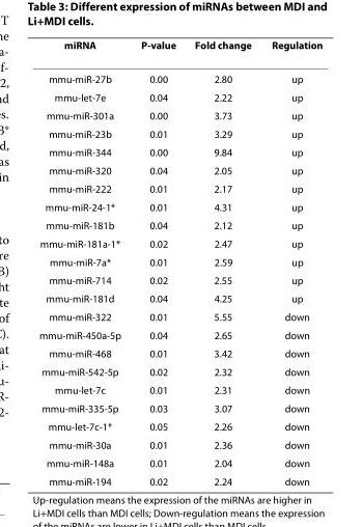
<table><thead><tr><td>miRNA</td><td>P-value</td><td>Fold change</td><td>Regulation</td></tr></thead><tbody><tr><td>mmu-miR-27b</td><td>0.00</td><td>2.80</td><td>up</td></tr><tr><td>mmu-let-7e</td><td>0.04</td><td>2.22</td><td>up</td></tr><tr><td>mmu-miR-301a</td><td>0.00</td><td>3.73</td><td>up</td></tr><tr><td>mmu-miR-23b</td><td>0.01</td><td>3.29</td><td>up</td></tr><tr><td>mmu-miR-344</td><td>0.00</td><td>9.84</td><td>up</td></tr><tr><td>mmu-miR-320</td><td>0.04</td><td>2.05</td><td>up</td></tr><tr><td>mmu-miR-222</td><td>0.01</td><td>2.17</td><td>up</td></tr><tr><td>mmu-miR-24-1*</td><td>0.01</td><td>4.31</td><td>up</td></tr><tr><td>mmu-miR-181b</td><td>0.04</td><td>2.12</td><td>up</td></tr><tr><td>mmu-miR-181a-1*</td><td>0.02</td><td>2.47</td><td>up</td></tr><tr><td>mmu-miR-7a*</td><td>0.01</td><td>2.59</td><td>up</td></tr><tr><td>mmu-miR-714</td><td>0.02</td><td>2.55</td><td>up</td></tr><tr><td>mmu-miR-181d</td><td>0.04</td><td>4.25</td><td>up</td></tr><tr><td>mmu-miR-322</td><td>0.01</td><td>5.55</td><td>down</td></tr><tr><td>mmu-miR-450a-5p</td><td>0.04</td><td>2.65</td><td>down</td></tr><tr><td>mmu-miR-468</td><td>0.01</td><td>3.42</td><td>down</td></tr><tr><td>mmu-miR-542-5p</td><td>0.02</td><td>2.32</td><td>down</td></tr><tr><td>mmu-let-7c</td><td>0.01</td><td>2.31</td><td>down</td></tr><tr><td>mmu-miR-335-5p</td><td>0.03</td><td>3.07</td><td>down</td></tr><tr><td>mmu-let-7c-1*</td><td>0.05</td><td>2.26</td><td>down</td></tr><tr><td>mmu-miR-30a</td><td>0.01</td><td>2.36</td><td>down</td></tr><tr><td>mmu-miR-148a</td><td>0.01</td><td>2.04</td><td>down</td></tr><tr><td>mmu-miR-194</td><td>0.02</td><td>2.24</td><td>down</td></tr></tbody></table>